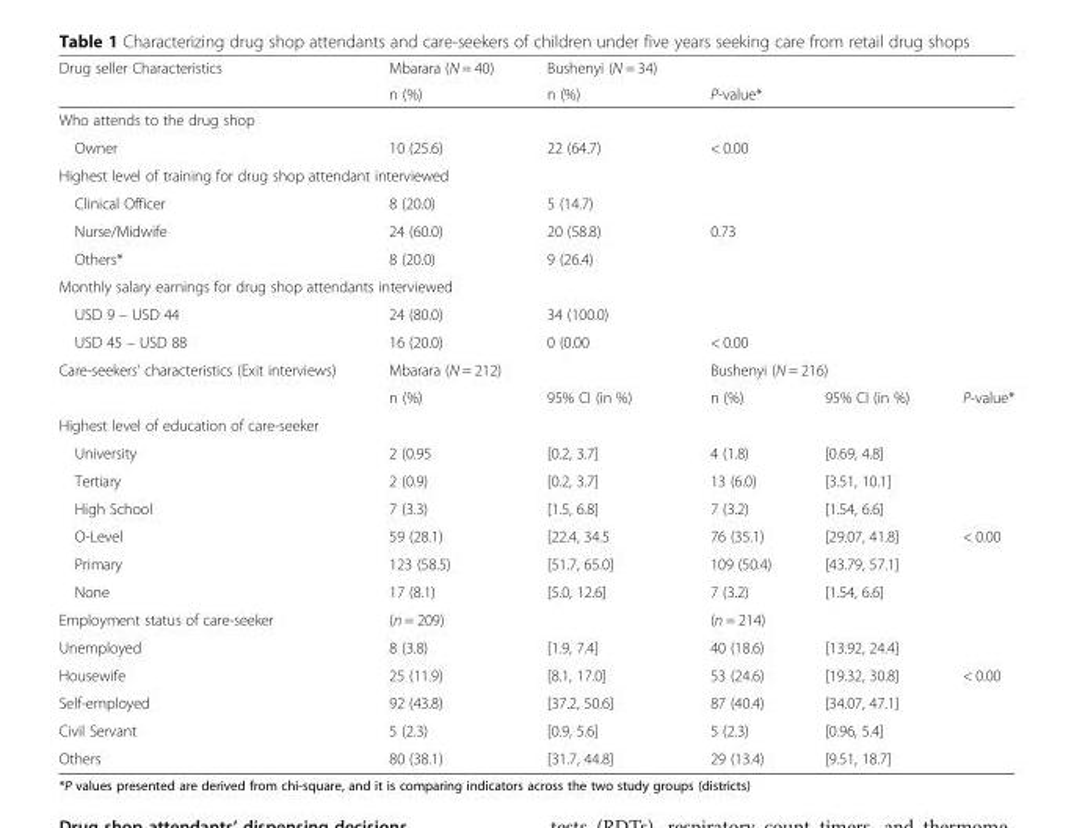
<table><thead><tr><td rowspan="2">Drug seller Characteristics</td><td rowspan="2">Mbarara (N = 40) n (%)</td><td rowspan="2">Bushenyi (N = 34) n (%)</td><td rowspan="2">P-value*</td><td rowspan="2"></td><td rowspan="2"></td></tr><tr></tr></thead><tbody><tr><td colspan="4">Who attends to the drug shop</td><td rowspan="9" colspan="2"></td></tr><tr><td>Owner</td><td>10 (25.6)</td><td>22 (64.7)</td><td>&lt; 0.00</td></tr><tr><td colspan="4">Highest level of training for drug shop attendant interviewed</td></tr><tr><td>Clinical Officer</td><td>8 (20.0)</td><td>5 (14.7)</td><td></td></tr><tr><td>Nurse/Midwife</td><td>24 (60.0)</td><td>20 (58.8)</td><td>0.73</td></tr><tr><td>Others*</td><td>8 (20.0)</td><td>9 (26.4)</td><td></td></tr><tr><td colspan="4">Monthly salary earnings for drug shop attendants interviewed</td></tr><tr><td>USD 9 – USD 44</td><td>24 (80.0)</td><td>34 (100.0)</td><td></td></tr><tr><td>USD 45 – USD 88</td><td>16 (20.0)</td><td>0 (0.00</td><td>&lt; 0.00</td></tr><tr><td rowspan="2">Care-seekers’ characteristics (Exit interviews)</td><td colspan="2">Mbarara (N = 212)</td><td colspan="2">Bushenyi (N = 216)</td><td></td></tr><tr><td>n (%)</td><td>95% CI (in %)</td><td>n (%)</td><td>95% CI (in %)</td><td>P-value*</td></tr><tr><td colspan="6">Highest level of education of care-seeker</td></tr><tr><td>University</td><td>2 (0.95</td><td>[0.2, 3.7]</td><td>4 (1.8)</td><td>[0.69, 4.8]</td><td></td></tr><tr><td>Tertiary</td><td>2 (0.9)</td><td>[0.2, 3.7]</td><td>13 (6.0)</td><td>[3.51, 10.1]</td><td></td></tr><tr><td>High School</td><td>7 (3.3)</td><td>[1.5, 6.8]</td><td>7 (3.2)</td><td>[1.54, 6.6]</td><td></td></tr><tr><td>O-Level</td><td>59 (28.1)</td><td>[22.4, 34.5</td><td>76 (35.1)</td><td>[29.07, 41.8]</td><td>&lt; 0.00</td></tr><tr><td>Primary</td><td>123 (58.5)</td><td>[51.7, 65.0]</td><td>109 (50.4)</td><td>[43.79, 57.1]</td><td></td></tr><tr><td>None</td><td>17 (8.1)</td><td>[5.0, 12.6]</td><td>7 (3.2)</td><td>[1.54, 6.6]</td><td></td></tr><tr><td>Employment status of care-seeker</td><td>(n = 209)</td><td></td><td>(n = 214)</td><td></td><td></td></tr><tr><td>Unemployed</td><td>8 (3.8)</td><td>[1.9, 7.4]</td><td>40 (18.6)</td><td>[13.92, 24.4]</td><td></td></tr><tr><td>Housewife</td><td>25 (11.9)</td><td>[8.1, 17.0]</td><td>53 (24.6)</td><td>[19.32, 30.8]</td><td>&lt; 0.00</td></tr><tr><td>Self-employed</td><td>92 (43.8)</td><td>[37.2, 50.6]</td><td>87 (40.4)</td><td>[34.07, 47.1]</td><td></td></tr><tr><td>Civil Servant</td><td>5 (2.3)</td><td>[0.9, 5.6]</td><td>5 (2.3)</td><td>[0.96, 5.4]</td><td></td></tr><tr><td>Others</td><td>80 (38.1)</td><td>[31.7, 44.8]</td><td>29 (13.4)</td><td>[9.51, 18.7]</td><td></td></tr></tbody></table>